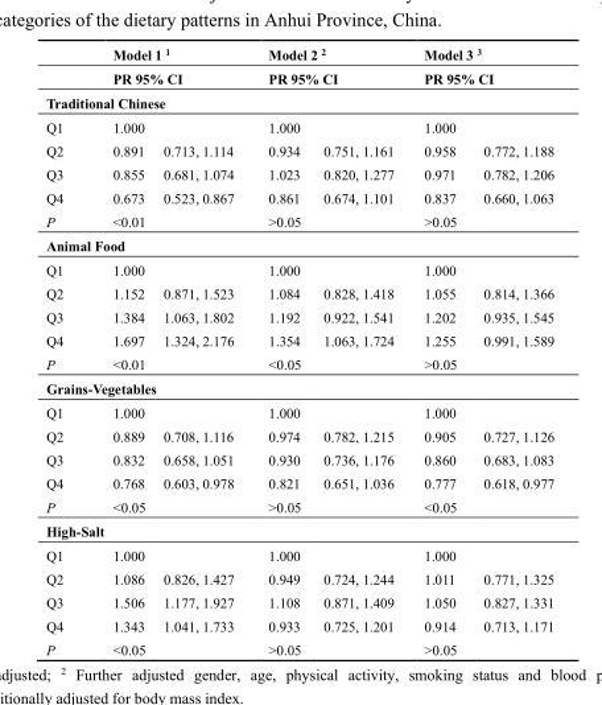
<table><thead><tr><td rowspan="2"></td><td rowspan="2" colspan="2">Model 1 <sup>1</sup> PR 95% CI</td><td rowspan="2" colspan="2">Model 2 <sup>2</sup> PR 95% CI</td><td rowspan="2" colspan="2">Model 3 <sup>3</sup> PR 95% CI</td></tr><tr></tr><tr><td colspan="7">Traditional Chinese</td></tr><tr><td>Q1</td><td>1.000</td><td></td><td>1.000</td><td></td><td>1.000</td><td></td></tr></thead><tbody><tr><td>Q2</td><td>0.891</td><td>0.713, 1.114</td><td>0.934</td><td>0.751, 1.161</td><td>0.958</td><td>0.772, 1.188</td></tr><tr><td>Q3</td><td>0.855</td><td>0.681, 1.074</td><td>1.023</td><td>0.820, 1.277</td><td>0.971</td><td>0.782, 1.206</td></tr><tr><td>Q4</td><td>0.673</td><td>0.523, 0.867</td><td>0.861</td><td>0.674, 1.101</td><td>0.837</td><td>0.660, 1.063</td></tr><tr><td>P</td><td>&lt;0.01</td><td></td><td>&gt;0.05</td><td></td><td>&gt;0.05</td><td></td></tr><tr><td colspan="7">Animal Food</td></tr><tr><td>Q1</td><td>1.000</td><td></td><td>1.000</td><td></td><td>1.000</td><td></td></tr><tr><td>Q2</td><td>1.152</td><td>0.871, 1.523</td><td>1.084</td><td>0.828, 1.418</td><td>1.055</td><td>0.814, 1.366</td></tr><tr><td>Q3</td><td>1.384</td><td>1.063, 1.802</td><td>1.192</td><td>0.922, 1.541</td><td>1.202</td><td>0.935, 1.545</td></tr><tr><td>Q4</td><td>1.697</td><td>1.324, 2.176</td><td>1.354</td><td>1.063, 1.724</td><td>1.255</td><td>0.991, 1.589</td></tr><tr><td>P</td><td>&lt;0.01</td><td></td><td>&lt;0.05</td><td></td><td>&gt;0.05</td><td></td></tr><tr><td colspan="7">Grains-Vegetables</td></tr><tr><td>Q1</td><td>1.000</td><td></td><td>1.000</td><td></td><td>1.000</td><td></td></tr><tr><td>Q2</td><td>0.889</td><td>0.708, 1.116</td><td>0.974</td><td>0.782, 1.215</td><td>0.905</td><td>0.727, 1.126</td></tr><tr><td>Q3</td><td>0.832</td><td>0.658, 1.051</td><td>0.930</td><td>0.736, 1.176</td><td>0.860</td><td>0.683, 1.083</td></tr><tr><td>Q4</td><td>0.768</td><td>0.603, 0.978</td><td>0.821</td><td>0.651, 1.036</td><td>0.777</td><td>0.618, 0.977</td></tr><tr><td>P</td><td>&lt;0.05</td><td></td><td>&gt;0.05</td><td></td><td>&lt;0.05</td><td></td></tr><tr><td colspan="7">High-Salt</td></tr><tr><td>Q1</td><td>1.000</td><td></td><td>1.000</td><td></td><td>1.000</td><td></td></tr><tr><td>Q2</td><td>1.086</td><td>0.826, 1.427</td><td>0.949</td><td>0.724, 1.244</td><td>1.011</td><td>0.771, 1.325</td></tr><tr><td>Q3</td><td>1.506</td><td>1.177, 1.927</td><td>1.108</td><td>0.871, 1.409</td><td>1.050</td><td>0.827, 1.331</td></tr><tr><td>Q4</td><td>1.343</td><td>1.041, 1.733</td><td>0.933</td><td>0.725, 1.201</td><td>0.914</td><td>0.713, 1.171</td></tr><tr><td>P</td><td>&lt;0.05</td><td></td><td>&gt;0.05</td><td></td><td>&gt;0.05</td><td></td></tr></tbody></table>